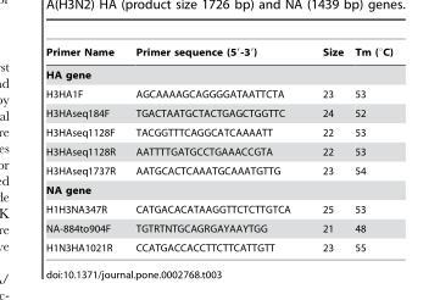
<table><thead><tr><td>Primer Name</td><td>Primer sequence (5′-3′)</td><td>Size</td><td>Tm (°C)</td></tr></thead><tbody><tr><td colspan="4">HA gene</td></tr><tr><td>H3HA1F</td><td>AGCAAAAGCAGGGGATAATTCTA</td><td>23</td><td>53</td></tr><tr><td>H3HAseq184F</td><td>TGACTAATGCTACTGAGCTGGTTC</td><td>24</td><td>52</td></tr><tr><td>H3HAseq1128F</td><td>TACGGTTTCAGGCATCAAAATT</td><td>22</td><td>53</td></tr><tr><td>H3HAseq1128R</td><td>AATTTTGATGCCTGAAACCGTA</td><td>22</td><td>53</td></tr><tr><td>H3HAseq1737R</td><td>AATGCACTCAAATGCAAATGTTG</td><td>23</td><td>54</td></tr><tr><td colspan="4">NA gene</td></tr><tr><td>H1H3NA347R</td><td>CATGACACATAAGGTTCTCTTGTCA</td><td>25</td><td>53</td></tr><tr><td>NA-884to904F</td><td>TGTRTNTGCAGRGAYAAYTGG</td><td>21</td><td>48</td></tr><tr><td>H1N3HA1021R</td><td>CCATGACCACCTTCTTCATTGTT</td><td>23</td><td>55</td></tr></tbody></table>